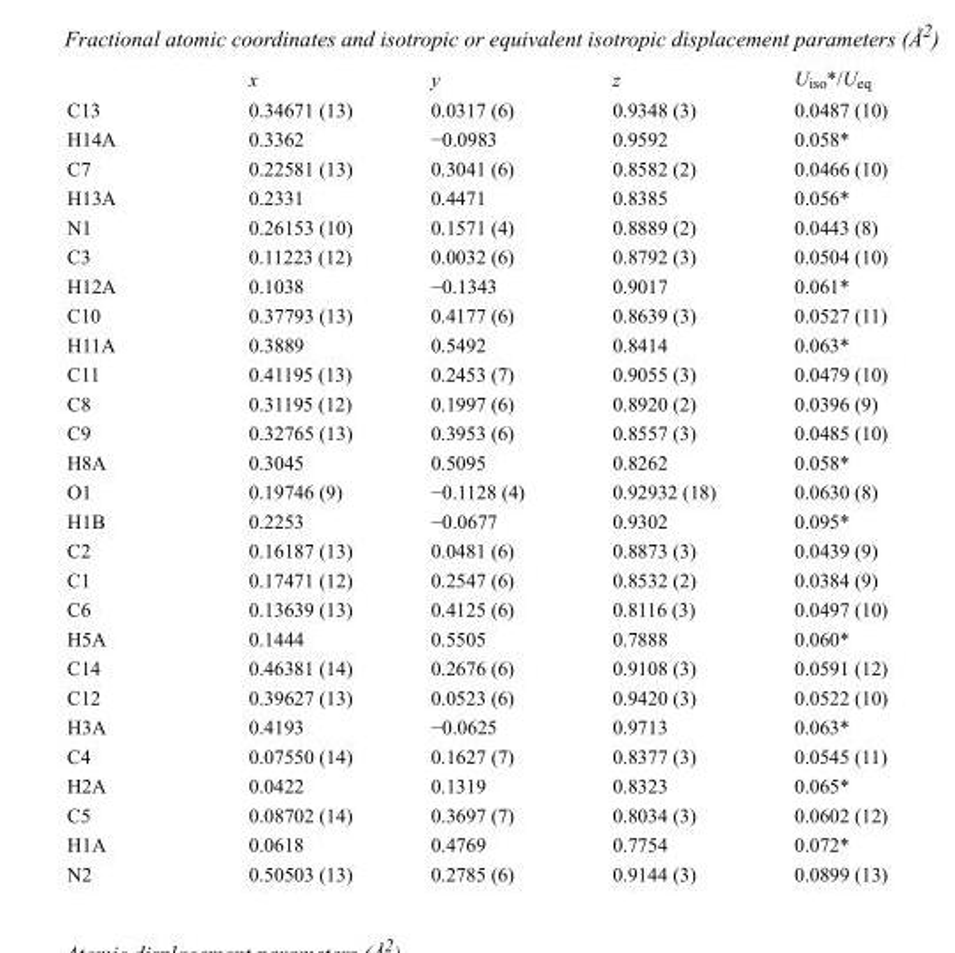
<table><thead><tr><td></td><td>x</td><td>y</td><td>z</td><td>U<sub>iso</sub>*/U<sub>eq</sub></td></tr></thead><tbody><tr><td>C13</td><td>0.34671 (13)</td><td>0.0317 (6)</td><td>0.9348 (3)</td><td>0.0487 (10)</td></tr><tr><td>H14A</td><td>0.3362</td><td>−0.0983</td><td>0.9592</td><td>0.058*</td></tr><tr><td>C7</td><td>0.22581 (13)</td><td>0.3041 (6)</td><td>0.8582 (2)</td><td>0.0466 (10)</td></tr><tr><td>H13A</td><td>0.2331</td><td>0.4471</td><td>0.8385</td><td>0.056*</td></tr><tr><td>N1</td><td>0.26153 (10)</td><td>0.1571 (4)</td><td>0.8889 (2)</td><td>0.0443 (8)</td></tr><tr><td>C3</td><td>0.11223 (12)</td><td>0.0032 (6)</td><td>0.8792 (3)</td><td>0.0504 (10)</td></tr><tr><td>H12A</td><td>0.1038</td><td>−0.1343</td><td>0.9017</td><td>0.061*</td></tr><tr><td>C10</td><td>0.37793 (13)</td><td>0.4177 (6)</td><td>0.8639 (3)</td><td>0.0527 (11)</td></tr><tr><td>H11A</td><td>0.3889</td><td>0.5492</td><td>0.8414</td><td>0.063*</td></tr><tr><td>C11</td><td>0.41195 (13)</td><td>0.2453 (7)</td><td>0.9055 (3)</td><td>0.0479 (10)</td></tr><tr><td>C8</td><td>0.31195 (12)</td><td>0.1997 (6)</td><td>0.8920 (2)</td><td>0.0396 (9)</td></tr><tr><td>C9</td><td>0.32765 (13)</td><td>0.3953 (6)</td><td>0.8557 (3)</td><td>0.0485 (10)</td></tr><tr><td>H8A</td><td>0.3045</td><td>0.5095</td><td>0.8262</td><td>0.058*</td></tr><tr><td>O1</td><td>0.19746 (9)</td><td>−0.1128 (4)</td><td>0.92932 (18)</td><td>0.0630 (8)</td></tr><tr><td>H1B</td><td>0.2253</td><td>−0.0677</td><td>0.9302</td><td>0.095*</td></tr><tr><td>C2</td><td>0.16187 (13)</td><td>0.0481 (6)</td><td>0.8873 (3)</td><td>0.0439 (9)</td></tr><tr><td>C1</td><td>0.17471 (12)</td><td>0.2547 (6)</td><td>0.8532 (2)</td><td>0.0384 (9)</td></tr><tr><td>C6</td><td>0.13639 (13)</td><td>0.4125 (6)</td><td>0.8116 (3)</td><td>0.0497 (10)</td></tr><tr><td>H5A</td><td>0.1444</td><td>0.5505</td><td>0.7888</td><td>0.060*</td></tr><tr><td>C14</td><td>0.46381 (14)</td><td>0.2676 (6)</td><td>0.9108 (3)</td><td>0.0591 (12)</td></tr><tr><td>C12</td><td>0.39627 (13)</td><td>0.0523 (6)</td><td>0.9420 (3)</td><td>0.0522 (10)</td></tr><tr><td>H3A</td><td>0.4193</td><td>−0.0625</td><td>0.9713</td><td>0.063*</td></tr><tr><td>C4</td><td>0.07550 (14)</td><td>0.1627 (7)</td><td>0.8377 (3)</td><td>0.0545 (11)</td></tr><tr><td>H2A</td><td>0.0422</td><td>0.1319</td><td>0.8323</td><td>0.065*</td></tr><tr><td>C5</td><td>0.08702 (14)</td><td>0.3697 (7)</td><td>0.8034 (3)</td><td>0.0602 (12)</td></tr><tr><td>H1A</td><td>0.0618</td><td>0.4769</td><td>0.7754</td><td>0.072*</td></tr><tr><td>N2</td><td>0.50503 (13)</td><td>0.2785 (6)</td><td>0.9144 (3)</td><td>0.0899 (13)</td></tr></tbody></table>